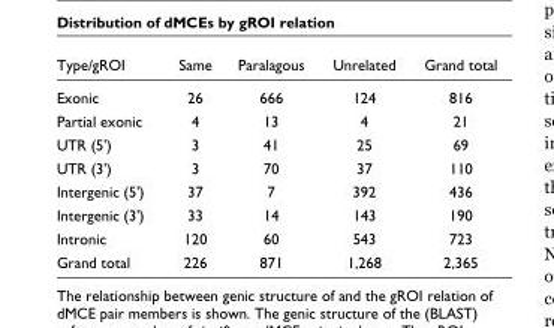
<table><thead><tr><td>Type/gROI</td><td>Same</td><td>Paralagous</td><td>Unrelated</td><td>Grand total</td></tr></thead><tbody><tr><td>Exonic</td><td>26</td><td>666</td><td>124</td><td>816</td></tr><tr><td>Partial exonic</td><td>4</td><td>13</td><td>4</td><td>21</td></tr><tr><td>UTR (5&#x27;)</td><td>3</td><td>41</td><td>25</td><td>69</td></tr><tr><td>UTR (3&#x27;)</td><td>3</td><td>70</td><td>37</td><td>110</td></tr><tr><td>Intergenic (5&#x27;)</td><td>37</td><td>7</td><td>392</td><td>436</td></tr><tr><td>Intergenic (3&#x27;)</td><td>33</td><td>14</td><td>143</td><td>190</td></tr><tr><td>Intronic</td><td>120</td><td>60</td><td>543</td><td>723</td></tr><tr><td>Grand total</td><td>226</td><td>871</td><td>1,268</td><td>2,365</td></tr></tbody></table>